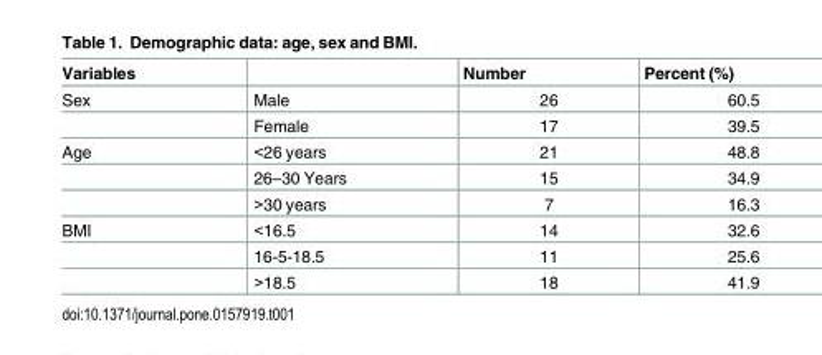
<table><thead><tr><td>Variables</td><td></td><td>Number</td><td>Percent (%)</td></tr></thead><tbody><tr><td rowspan="2">Sex</td><td>Male</td><td>26</td><td>60.5</td></tr><tr><td>Female</td><td>17</td><td>39.5</td></tr><tr><td rowspan="3">Age</td><td>&lt;26 years</td><td>21</td><td>48.8</td></tr><tr><td>26–30 Years</td><td>15</td><td>34.9</td></tr><tr><td>&gt;30 years</td><td>7</td><td>16.3</td></tr><tr><td rowspan="3">BMI</td><td>&lt;16.5</td><td>14</td><td>32.6</td></tr><tr><td>16-5-18.5</td><td>11</td><td>25.6</td></tr><tr><td>&gt;18.5</td><td>18</td><td>41.9</td></tr></tbody></table>